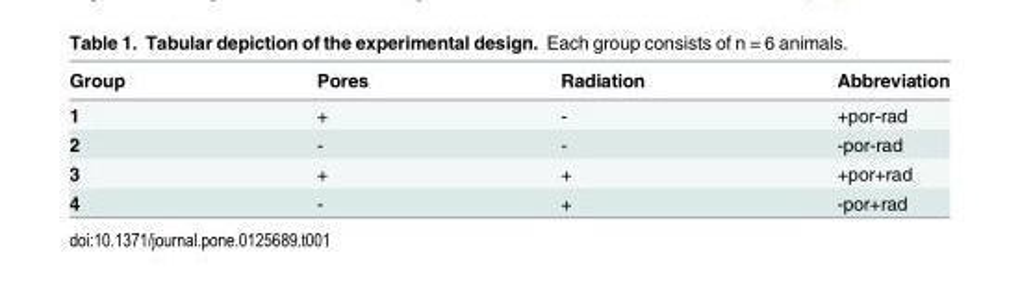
<table><thead><tr><td>Group</td><td>Pores</td><td>Radiation</td><td>Abbreviation</td></tr></thead><tbody><tr><td>1</td><td>+</td><td>-</td><td>+por-rad</td></tr><tr><td>2</td><td>-</td><td>-</td><td>-por-rad</td></tr><tr><td>3</td><td>+</td><td>+</td><td>+por+rad</td></tr><tr><td>4</td><td>-</td><td>+</td><td>-por+rad</td></tr></tbody></table>